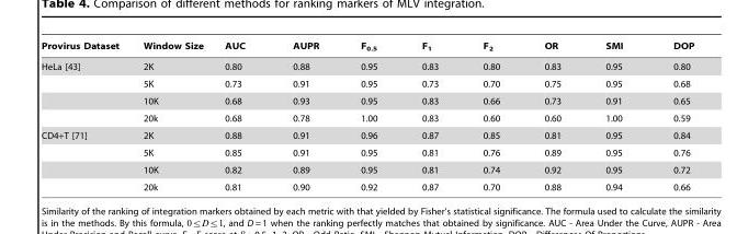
<table><thead><tr><td>Provirus Dataset</td><td>Window Size</td><td>AUC</td><td>AUPR</td><td>F<sub>0.5</sub></td><td>F<sub>1</sub></td><td>F<sub>2</sub></td><td>OR</td><td>SMI</td><td>DOP</td></tr></thead><tbody><tr><td rowspan="4">HeLa [43]</td><td>2K</td><td>0.80</td><td>0.88</td><td>0.95</td><td>0.83</td><td>0.80</td><td>0.83</td><td>0.95</td><td>0.80</td></tr><tr><td>5K</td><td>0.73</td><td>0.91</td><td>0.95</td><td>0.73</td><td>0.70</td><td>0.75</td><td>0.95</td><td>0.68</td></tr><tr><td>10K</td><td>0.68</td><td>0.93</td><td>0.95</td><td>0.83</td><td>0.66</td><td>0.73</td><td>0.91</td><td>0.65</td></tr><tr><td>20k</td><td>0.68</td><td>0.78</td><td>1.00</td><td>0.83</td><td>0.60</td><td>0.60</td><td>1.00</td><td>0.59</td></tr><tr><td rowspan="4">CD4+T [71]</td><td>2K</td><td>0.88</td><td>0.91</td><td>0.96</td><td>0.87</td><td>0.85</td><td>0.81</td><td>0.95</td><td>0.84</td></tr><tr><td>5K</td><td>0.85</td><td>0.91</td><td>0.95</td><td>0.81</td><td>0.76</td><td>0.89</td><td>0.95</td><td>0.76</td></tr><tr><td>10K</td><td>0.82</td><td>0.89</td><td>0.95</td><td>0.81</td><td>0.74</td><td>0.92</td><td>0.95</td><td>0.72</td></tr><tr><td>20k</td><td>0.81</td><td>0.90</td><td>0.92</td><td>0.87</td><td>0.70</td><td>0.88</td><td>0.94</td><td>0.66</td></tr></tbody></table>